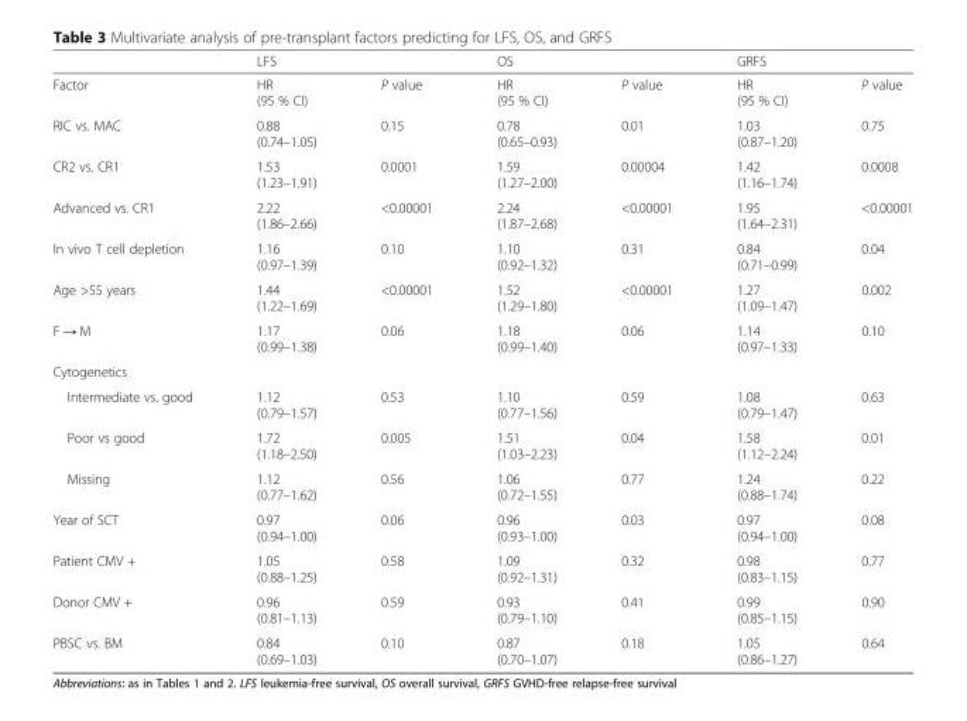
<table><thead><tr><td rowspan="2">Factor</td><td colspan="2">LFS</td><td colspan="2">OS</td><td colspan="2">GRFS</td></tr><tr><td>HR (95 % CI)</td><td>P value</td><td>HR (95 % CI)</td><td>P value</td><td>HR (95 % CI)</td><td>P value</td></tr></thead><tbody><tr><td>RIC vs. MAC</td><td>0.88 (0.74–1.05)</td><td>0.15</td><td>0.78 (0.65–0.93)</td><td>0.01</td><td>1.03 (0.87–1.20)</td><td>0.75</td></tr><tr><td>CR2 vs. CR1</td><td>1.53 (1.23–1.91)</td><td>0.0001</td><td>1.59 (1.27–2.00)</td><td>0.00004</td><td>1.42 (1.16–1.74)</td><td>0.0008</td></tr><tr><td>Advanced vs. CR1</td><td>2.22 (1.86–2.66)</td><td>&lt;0.00001</td><td>2.24 (1.87–2.68)</td><td>&lt;0.00001</td><td>1.95 (1.64–2.31)</td><td>&lt;0.00001</td></tr><tr><td>In vivo T cell depletion</td><td>1.16 (0.97–1.39)</td><td>0.10</td><td>1.10 (0.92–1.32)</td><td>0.31</td><td>0.84 (0.71–0.99)</td><td>0.04</td></tr><tr><td>Age &gt;55 years</td><td>1.44 (1.22–1.69)</td><td>&lt;0.00001</td><td>1.52 (1.29–1.80)</td><td>&lt;0.00001</td><td>1.27 (1.09–1.47)</td><td>0.002</td></tr><tr><td>F → M</td><td>1.17 (0.99–1.38)</td><td>0.06</td><td>1.18 (0.99–1.40)</td><td>0.06</td><td>1.14 (0.97–1.33)</td><td>0.10</td></tr><tr><td colspan="7">Cytogenetics</td></tr><tr><td>Intermediate vs. good</td><td>1.12 (0.79–1.57)</td><td>0.53</td><td>1.10 (0.77–1.56)</td><td>0.59</td><td>1.08 (0.79–1.47)</td><td>0.63</td></tr><tr><td>Poor vs good</td><td>1.72 (1.18–2.50)</td><td>0.005</td><td>1.51 (1.03–2.23)</td><td>0.04</td><td>1.58 (1.12–2.24)</td><td>0.01</td></tr><tr><td>Missing</td><td>1.12 (0.77–1.62)</td><td>0.56</td><td>1.06 (0.72–1.55)</td><td>0.77</td><td>1.24 (0.88–1.74)</td><td>0.22</td></tr><tr><td>Year of SCT</td><td>0.97 (0.94–1.00)</td><td>0.06</td><td>0.96 (0.93–1.00)</td><td>0.03</td><td>0.97 (0.94–1.00)</td><td>0.08</td></tr><tr><td>Patient CMV +</td><td>1.05 (0.88–1.25)</td><td>0.58</td><td>1.09 (0.92–1.31)</td><td>0.32</td><td>0.98 (0.83–1.15)</td><td>0.77</td></tr><tr><td>Donor CMV +</td><td>0.96 (0.81–1.13)</td><td>0.59</td><td>0.93 (0.79–1.10)</td><td>0.41</td><td>0.99 (0.85–1.15)</td><td>0.90</td></tr><tr><td>PBSC vs. BM</td><td>0.84 (0.69–1.03)</td><td>0.10</td><td>0.87 (0.70–1.07)</td><td>0.18</td><td>1.05 (0.86–1.27)</td><td>0.64</td></tr></tbody></table>